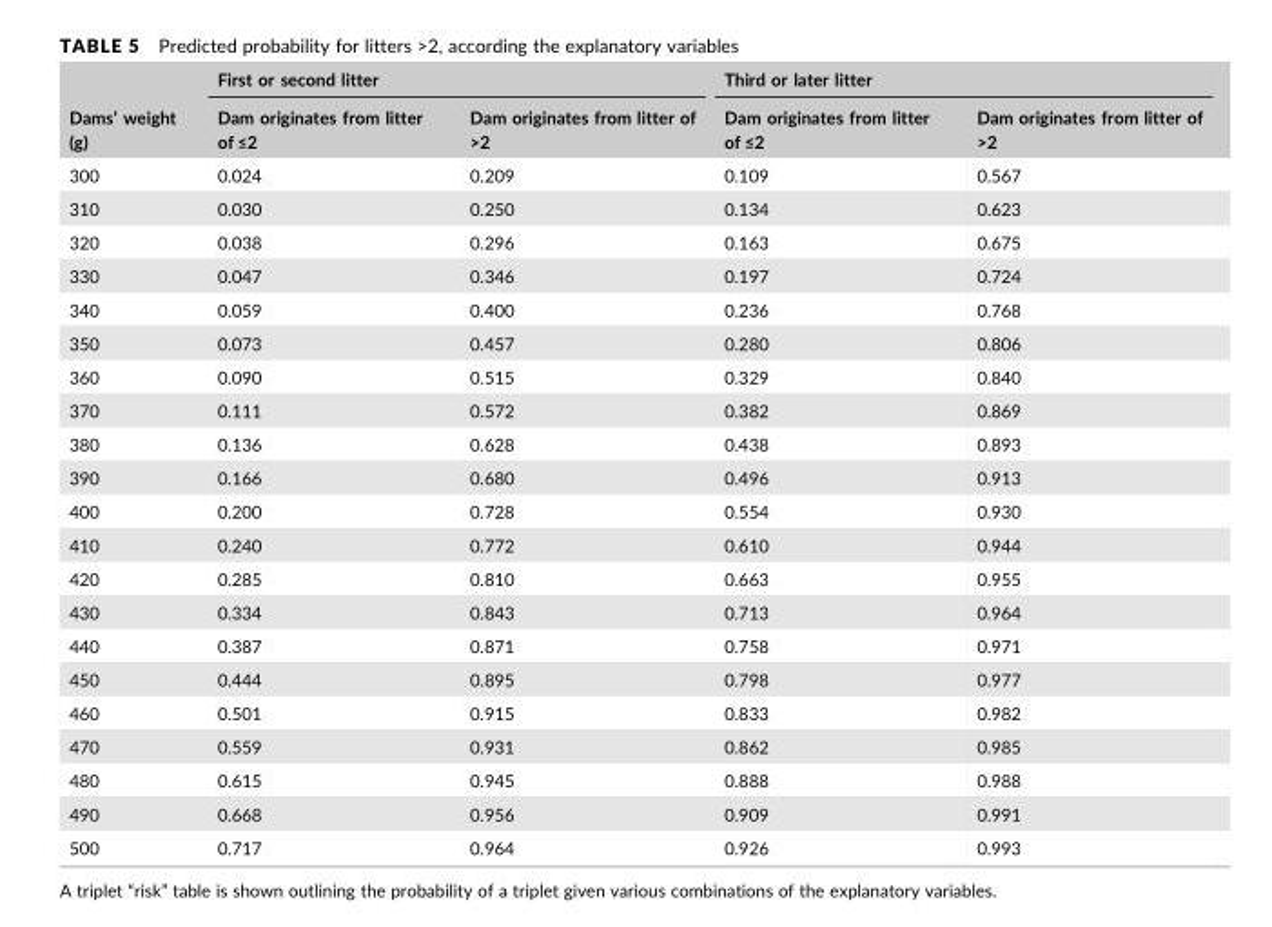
<table><thead><tr><td rowspan="2">Dams’ weight (g)</td><td colspan="2">First or second litter</td><td colspan="2">Third or later litter</td></tr><tr><td>Dam originates from litter of ≤2</td><td>Dam originates from litter of &gt;2</td><td>Dam originates from litter of ≤2</td><td>Dam originates from litter of &gt;2</td></tr></thead><tbody><tr><td>300</td><td>0.024</td><td>0.209</td><td>0.109</td><td>0.567</td></tr><tr><td>310</td><td>0.030</td><td>0.250</td><td>0.134</td><td>0.623</td></tr><tr><td>320</td><td>0.038</td><td>0.296</td><td>0.163</td><td>0.675</td></tr><tr><td>330</td><td>0.047</td><td>0.346</td><td>0.197</td><td>0.724</td></tr><tr><td>340</td><td>0.059</td><td>0.400</td><td>0.236</td><td>0.768</td></tr><tr><td>350</td><td>0.073</td><td>0.457</td><td>0.280</td><td>0.806</td></tr><tr><td>360</td><td>0.090</td><td>0.515</td><td>0.329</td><td>0.840</td></tr><tr><td>370</td><td>0.111</td><td>0.572</td><td>0.382</td><td>0.869</td></tr><tr><td>380</td><td>0.136</td><td>0.628</td><td>0.438</td><td>0.893</td></tr><tr><td>390</td><td>0.166</td><td>0.680</td><td>0.496</td><td>0.913</td></tr><tr><td>400</td><td>0.200</td><td>0.728</td><td>0.554</td><td>0.930</td></tr><tr><td>410</td><td>0.240</td><td>0.772</td><td>0.610</td><td>0.944</td></tr><tr><td>420</td><td>0.285</td><td>0.810</td><td>0.663</td><td>0.955</td></tr><tr><td>430</td><td>0.334</td><td>0.843</td><td>0.713</td><td>0.964</td></tr><tr><td>440</td><td>0.387</td><td>0.871</td><td>0.758</td><td>0.971</td></tr><tr><td>450</td><td>0.444</td><td>0.895</td><td>0.798</td><td>0.977</td></tr><tr><td>460</td><td>0.501</td><td>0.915</td><td>0.833</td><td>0.982</td></tr><tr><td>470</td><td>0.559</td><td>0.931</td><td>0.862</td><td>0.985</td></tr><tr><td>480</td><td>0.615</td><td>0.945</td><td>0.888</td><td>0.988</td></tr><tr><td>490</td><td>0.668</td><td>0.956</td><td>0.909</td><td>0.991</td></tr><tr><td>500</td><td>0.717</td><td>0.964</td><td>0.926</td><td>0.993</td></tr></tbody></table>